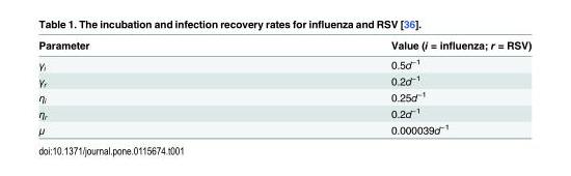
<table><thead><tr><td>Parameter</td><td>Value (i = influenza; r = RSV)</td></tr></thead><tbody><tr><td>γ<sub>i</sub></td><td>0.5d<sup>−1</sup></td></tr><tr><td>γ<sub>r</sub></td><td>0.2d<sup>−1</sup></td></tr><tr><td>η<sub>i</sub></td><td>0.25d<sup>−1</sup></td></tr><tr><td>η<sub>r</sub></td><td>0.2d<sup>−1</sup></td></tr><tr><td>μ</td><td>0.000039d<sup>−1</sup></td></tr></tbody></table>